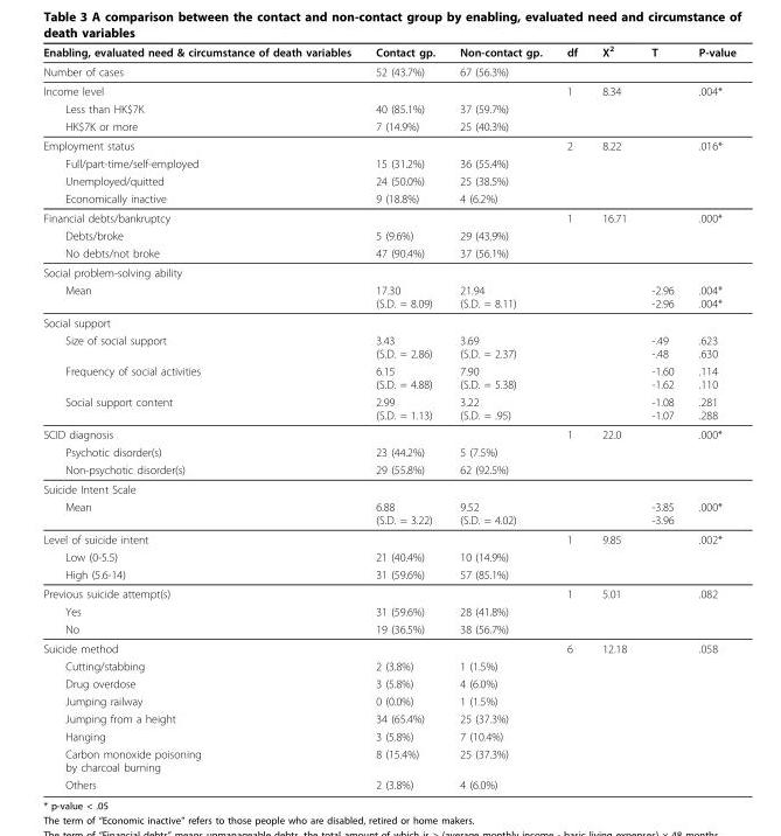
<table><thead><tr><td>Enabling, evaluated need &amp; circumstance of death variables</td><td>Contact gp.</td><td>Non-contact gp.</td><td>df</td><td>X<sup>2</sup></td><td>T</td><td>P-value</td></tr></thead><tbody><tr><td>Number of cases</td><td>52 (43.7%)</td><td>67 (56.3%)</td><td></td><td></td><td></td><td></td></tr><tr><td colspan="3">Income level</td><td>1</td><td>8.34</td><td></td><td>.004*</td></tr><tr><td>Less than HK$7K</td><td>40 (85.1%)</td><td>37 (59.7%)</td><td></td><td></td><td></td><td></td></tr><tr><td>HK$7K or more</td><td>7 (14.9%)</td><td>25 (40.3%)</td><td></td><td></td><td></td><td></td></tr><tr><td colspan="3">Employment status</td><td>2</td><td>8.22</td><td></td><td>.016*</td></tr><tr><td>Full/part-time/self-employed</td><td>15 (31.2%)</td><td>36 (55.4%)</td><td></td><td></td><td></td><td></td></tr><tr><td>Unemployed/quitted</td><td>24 (50.0%)</td><td>25 (38.5%)</td><td></td><td></td><td></td><td></td></tr><tr><td>Economically inactive</td><td>9 (18.8%)</td><td>4 (6.2%)</td><td></td><td></td><td></td><td></td></tr><tr><td colspan="3">Financial debts/bankruptcy</td><td>1</td><td>16.71</td><td></td><td>.000*</td></tr><tr><td>Debts/broke</td><td>5 (9.6%)</td><td>29 (43.9%)</td><td></td><td></td><td></td><td></td></tr><tr><td>No debts/not broke</td><td>47 (90.4%)</td><td>37 (56.1%)</td><td></td><td></td><td></td><td></td></tr><tr><td colspan="7">Social problem-solving ability</td></tr><tr><td>Mean</td><td>17.30 (S.D. = 8.09)</td><td>21.94 (S.D. = 8.11)</td><td></td><td></td><td>-2.96 -2.96</td><td>.004* .004*</td></tr><tr><td colspan="7">Social support</td></tr><tr><td>Size of social support</td><td>3.43 (S.D. = 2.86)</td><td>3.69 (S.D. = 2.37)</td><td></td><td></td><td>-.49 -.48</td><td>.623 .630</td></tr><tr><td>Frequency of social activities</td><td>6.15 (S.D. = 4.88)</td><td>7.90 (S.D. = 5.38)</td><td></td><td></td><td>-1.60 -1.62</td><td>.114 .110</td></tr><tr><td>Social support content</td><td>2.99 (S.D. = 1.13)</td><td>3.22 (S.D. = .95)</td><td></td><td></td><td>-1.08 -1.07</td><td>.281 .288</td></tr><tr><td colspan="3">SCID diagnosis</td><td>1</td><td>22.0</td><td></td><td>.000*</td></tr><tr><td>Psychotic disorder(s)</td><td>23 (44.2%)</td><td>5 (7.5%)</td><td></td><td></td><td></td><td></td></tr><tr><td>Non-psychotic disorder(s)</td><td>29 (55.8%)</td><td>62 (92.5%)</td><td></td><td></td><td></td><td></td></tr><tr><td colspan="7">Suicide Intent Scale</td></tr><tr><td>Mean</td><td>6.88 (S.D. = 3.22)</td><td>9.52 (S.D. = 4.02)</td><td></td><td></td><td>-3.85 -3.96</td><td>.000*</td></tr><tr><td colspan="3">Level of suicide intent</td><td>1</td><td>9.85</td><td></td><td>.002*</td></tr><tr><td>Low (0-5.5)</td><td>21 (40.4%)</td><td>10 (14.9%)</td><td></td><td></td><td></td><td></td></tr><tr><td>High (5.6-14)</td><td>31 (59.6%)</td><td>57 (85.1%)</td><td></td><td></td><td></td><td></td></tr><tr><td colspan="3">Previous suicide attempt(s)</td><td>1</td><td>5.01</td><td></td><td>.082</td></tr><tr><td>Yes</td><td>31 (59.6%)</td><td>28 (41.8%)</td><td></td><td></td><td></td><td></td></tr><tr><td>No</td><td>19 (36.5%)</td><td>38 (56.7%)</td><td></td><td></td><td></td><td></td></tr><tr><td colspan="3">Suicide method</td><td>6</td><td>12.18</td><td></td><td>.058</td></tr><tr><td>Cutting/stabbing</td><td>2 (3.8%)</td><td>1 (1.5%)</td><td></td><td></td><td></td><td></td></tr><tr><td>Drug overdose</td><td>3 (5.8%)</td><td>4 (6.0%)</td><td></td><td></td><td></td><td></td></tr><tr><td>Jumping railway</td><td>0 (0.0%)</td><td>1 (1.5%)</td><td></td><td></td><td></td><td></td></tr><tr><td>Jumping from a height</td><td>34 (65.4%)</td><td>25 (37.3%)</td><td></td><td></td><td></td><td></td></tr><tr><td>Hanging</td><td>3 (5.8%)</td><td>7 (10.4%)</td><td></td><td></td><td></td><td></td></tr><tr><td>Carbon monoxide poisoning by charcoal burning</td><td>8 (15.4%)</td><td>25 (37.3%)</td><td></td><td></td><td></td><td></td></tr><tr><td>Others</td><td>2 (3.8%)</td><td>4 (6.0%)</td><td></td><td></td><td></td><td></td></tr></tbody></table>